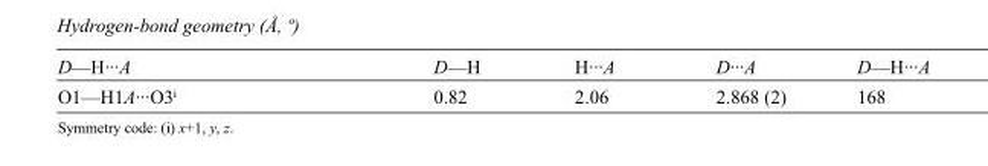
<table><tbody><tr><td>D—H···A</td><td>D—H</td><td>H···A</td><td>D···A</td><td>D—H···A</td></tr><tr><td>O1—H1A···O3<sup>i</sup></td><td>0.82</td><td>2.06</td><td>2.868 (2)</td><td>168</td></tr></tbody></table>